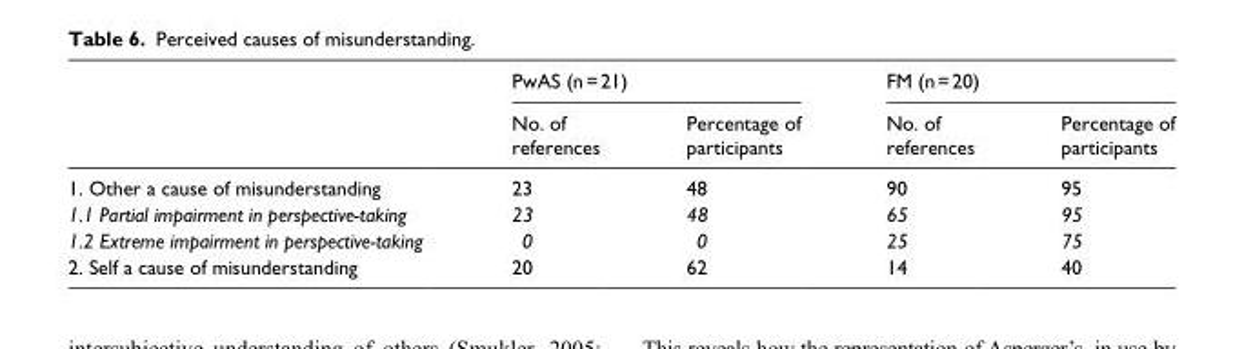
<table><thead><tr><td rowspan="2"></td><td colspan="2">PwAS (n = 21)</td><td colspan="2">FM (n = 20)</td></tr><tr><td>No. of references</td><td>Percentage of participants</td><td>No. of references</td><td>Percentage of participants</td></tr></thead><tbody><tr><td>1. Other a cause of misunderstanding</td><td>23</td><td>48</td><td>90</td><td>95</td></tr><tr><td>1.1 Partial impairment in perspective-taking</td><td>23</td><td>48</td><td>65</td><td>95</td></tr><tr><td>1.2 Extreme impairment in perspective-taking</td><td>0</td><td>0</td><td>25</td><td>75</td></tr><tr><td>2. Self a cause of misunderstanding</td><td>20</td><td>62</td><td>14</td><td>40</td></tr></tbody></table>